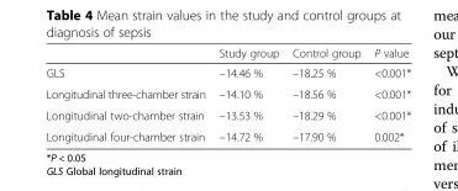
<table><thead><tr><td></td><td>Study group</td><td>Control group</td><td>P value</td></tr></thead><tbody><tr><td>GLS</td><td>–14.46 %</td><td>–18.25 %</td><td>&lt;0.001*</td></tr><tr><td>Longitudinal three-chamber strain</td><td>–14.10 %</td><td>–18.56 %</td><td>&lt;0.001*</td></tr><tr><td>Longitudinal two-chamber strain</td><td>–13.53 %</td><td>–18.29 %</td><td>&lt;0.001*</td></tr><tr><td>Longitudinal four-chamber strain</td><td>–14.72 %</td><td>–17.90 %</td><td>0.002*</td></tr></tbody></table>